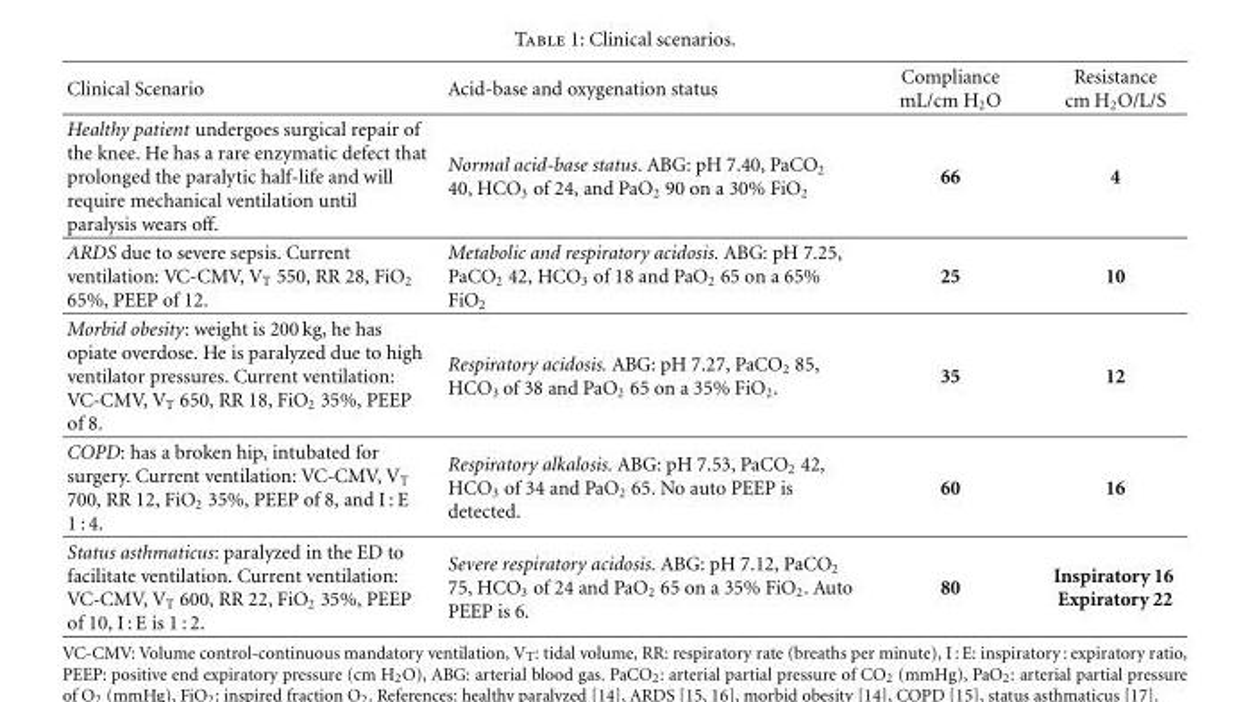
<table><thead><tr><td>Clinical Scenario</td><td>Acid-base and oxygenation status</td><td>Compliance mL/cm H<sub>2</sub>O</td><td>Resistance cm H<sub>2</sub>O/L/S</td></tr></thead><tbody><tr><td>Healthy patient undergoes surgical repair of the knee. He has a rare enzymatic defect that prolonged the paralytic half-life and will require mechanical ventilation until paralysis wears off.</td><td>Normal acid-base status. ABG: pH 7.40, PaCO<sub>2</sub> 40, HCO<sub>3</sub> of 24, and PaO<sub>2</sub> 90 on a 30% FiO<sub>2</sub></td><td>66</td><td>4</td></tr><tr><td>ARDS due to severe sepsis. Current ventilation: VC-CMV, V<sub>T</sub> 550, RR 28, FiO<sub>2</sub> 65%, PEEP of 12.</td><td>Metabolic and respiratory acidosis. ABG: pH 7.25, PaCO<sub>2</sub> 42, HCO<sub>3</sub> of 18 and PaO<sub>2</sub> 65 on a 65% FiO<sub>2</sub></td><td>25</td><td>10</td></tr><tr><td>Morbid obesity: weight is 200 kg, he has opiate overdose. He is paralyzed due to high ventilator pressures. Current ventilation: VC-CMV, V<sub>T</sub> 650, RR 18, FiO<sub>2</sub> 35%, PEEP of 8.</td><td>Respiratory acidosis. ABG: pH 7.27, PaCO<sub>2</sub> 85, HCO<sub>3</sub> of 38 and PaO<sub>2</sub> 65 on a 35% FiO<sub>2</sub>.</td><td>35</td><td>12</td></tr><tr><td>COPD: has a broken hip, intubated for surgery. Current ventilation: VC-CMV, V<sub>T</sub> 700, RR 12, FiO<sub>2</sub> 35%, PEEP of 8, and I : E 1 : 4.</td><td>Respiratory alkalosis. ABG: pH 7.53, PaCO<sub>2</sub> 42, HCO<sub>3</sub> of 34 and PaO<sub>2</sub> 65. No auto PEEP is detected.</td><td>60</td><td>16</td></tr><tr><td>Status asthmaticus: paralyzed in the ED to facilitate ventilation. Current ventilation: VC-CMV, V<sub>T</sub> 600, RR 22, FiO<sub>2</sub> 35%, PEEP of 10, I : E is 1 : 2.</td><td>Severe respiratory acidosis. ABG: pH 7.12, PaCO<sub>2</sub> 75, HCO<sub>3</sub> of 24 and PaO<sub>2</sub> 65 on a 35% FiO<sub>2</sub>. Auto PEEP is 6.</td><td>80</td><td>Inspiratory 16 Expiratory 22</td></tr></tbody></table>